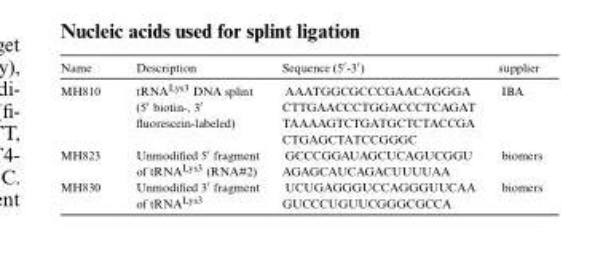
<table><thead><tr><td>Name</td><td>Description</td><td>Sequence (5′-3′)</td><td>supplier</td></tr></thead><tbody><tr><td>MH810</td><td>tRNA<sup>Lys3</sup> DNA splint (5′ biotin-, 3′ fluorescein-labeled)</td><td>AAATGGCGCCCGAACAGGGA CTTGAACCCTGGACCCTCAGAT TAAAAGTCTGATGCTCTACCGA CTGAGCTATCCGGGC</td><td>IBA</td></tr><tr><td>MH823</td><td>Unmodified 5′ fragment of tRNA<sup>Lys3</sup> (RNA#2)</td><td>GCCCGGAUAGCUCAGUCGGU AGAGCAUCAGACUUUUAA</td><td>biomers</td></tr><tr><td>MH830</td><td>Unmodified 3′ fragment of tRNA<sup>Lys3</sup></td><td>UCUGAGGGUCCAGGGUUCAA GUCCCUGUUCGGGCGCCA</td><td>biomers</td></tr></tbody></table>